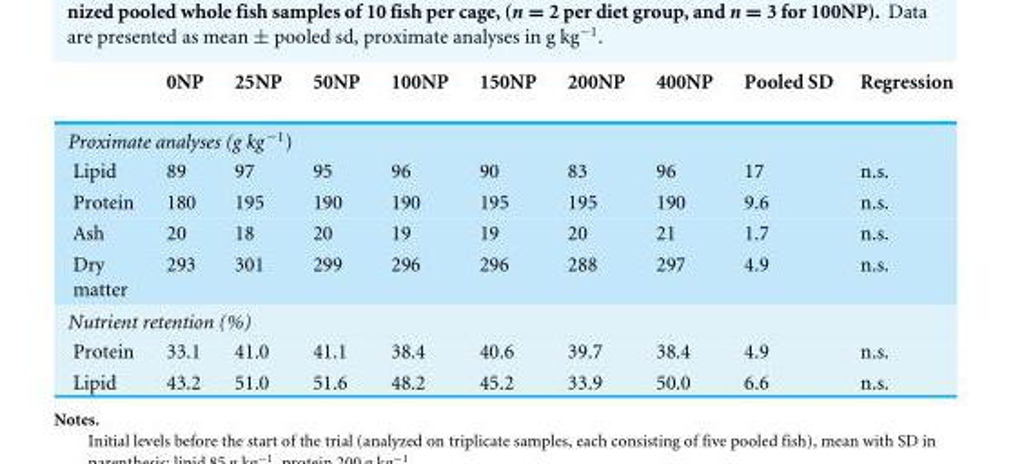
<table><thead><tr><td></td><td>0NP</td><td>25NP</td><td>50NP</td><td>100NP</td><td>150NP</td><td>200NP</td><td>400NP</td><td>Pooled SD</td><td>Regression</td></tr></thead><tbody><tr><td colspan="10">Proximate analyses (g kg <sup>−1</sup>)</td></tr><tr><td>Lipid</td><td>89</td><td>97</td><td>95</td><td>96</td><td>90</td><td>83</td><td>96</td><td>17</td><td>n.s.</td></tr><tr><td>Protein</td><td>180</td><td>195</td><td>190</td><td>190</td><td>195</td><td>195</td><td>190</td><td>9.6</td><td>n.s.</td></tr><tr><td>Ash</td><td>20</td><td>18</td><td>20</td><td>19</td><td>19</td><td>20</td><td>21</td><td>1.7</td><td>n.s.</td></tr><tr><td>Dry matter</td><td>293</td><td>301</td><td>299</td><td>296</td><td>296</td><td>288</td><td>297</td><td>4.9</td><td>n.s.</td></tr><tr><td colspan="10">Nutrient retention (%)</td></tr><tr><td>Protein</td><td>33.1</td><td>41.0</td><td>41.1</td><td>38.4</td><td>40.6</td><td>39.7</td><td>38.4</td><td>4.9</td><td>n.s.</td></tr><tr><td>Lipid</td><td>43.2</td><td>51.0</td><td>51.6</td><td>48.2</td><td>45.2</td><td>33.9</td><td>50.0</td><td>6.6</td><td>n.s.</td></tr></tbody></table>